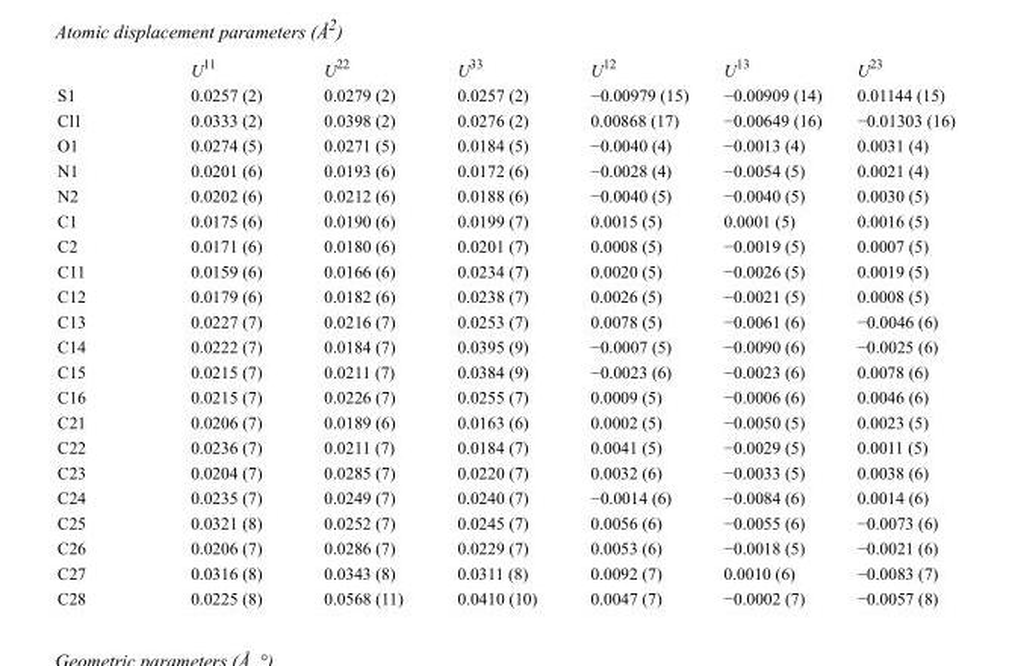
<table><thead><tr><td></td><td>U<sup>11</sup></td><td>U<sup>22</sup></td><td>U<sup>33</sup></td><td>U<sup>12</sup></td><td>U<sup>13</sup></td><td>U<sup>23</sup></td></tr></thead><tbody><tr><td>S1</td><td>0.0257 (2)</td><td>0.0279 (2)</td><td>0.0257 (2)</td><td>−0.00979 (15)</td><td>−0.00909 (14)</td><td>0.01144 (15)</td></tr><tr><td>Cl1</td><td>0.0333 (2)</td><td>0.0398 (2)</td><td>0.0276 (2)</td><td>0.00868 (17)</td><td>−0.00649 (16)</td><td>−0.01303 (16)</td></tr><tr><td>O1</td><td>0.0274 (5)</td><td>0.0271 (5)</td><td>0.0184 (5)</td><td>−0.0040 (4)</td><td>−0.0013 (4)</td><td>0.0031 (4)</td></tr><tr><td>N1</td><td>0.0201 (6)</td><td>0.0193 (6)</td><td>0.0172 (6)</td><td>−0.0028 (4)</td><td>−0.0054 (5)</td><td>0.0021 (4)</td></tr><tr><td>N2</td><td>0.0202 (6)</td><td>0.0212 (6)</td><td>0.0188 (6)</td><td>−0.0040 (5)</td><td>−0.0040 (5)</td><td>0.0030 (5)</td></tr><tr><td>C1</td><td>0.0175 (6)</td><td>0.0190 (6)</td><td>0.0199 (7)</td><td>0.0015 (5)</td><td>0.0001 (5)</td><td>0.0016 (5)</td></tr><tr><td>C2</td><td>0.0171 (6)</td><td>0.0180 (6)</td><td>0.0201 (7)</td><td>0.0008 (5)</td><td>−0.0019 (5)</td><td>0.0007 (5)</td></tr><tr><td>C11</td><td>0.0159 (6)</td><td>0.0166 (6)</td><td>0.0234 (7)</td><td>0.0020 (5)</td><td>−0.0026 (5)</td><td>0.0019 (5)</td></tr><tr><td>C12</td><td>0.0179 (6)</td><td>0.0182 (6)</td><td>0.0238 (7)</td><td>0.0026 (5)</td><td>−0.0021 (5)</td><td>0.0008 (5)</td></tr><tr><td>C13</td><td>0.0227 (7)</td><td>0.0216 (7)</td><td>0.0253 (7)</td><td>0.0078 (5)</td><td>−0.0061 (6)</td><td>−0.0046 (6)</td></tr><tr><td>C14</td><td>0.0222 (7)</td><td>0.0184 (7)</td><td>0.0395 (9)</td><td>−0.0007 (5)</td><td>−0.0090 (6)</td><td>−0.0025 (6)</td></tr><tr><td>C15</td><td>0.0215 (7)</td><td>0.0211 (7)</td><td>0.0384 (9)</td><td>−0.0023 (6)</td><td>−0.0023 (6)</td><td>0.0078 (6)</td></tr><tr><td>C16</td><td>0.0215 (7)</td><td>0.0226 (7)</td><td>0.0255 (7)</td><td>0.0009 (5)</td><td>−0.0006 (6)</td><td>0.0046 (6)</td></tr><tr><td>C21</td><td>0.0206 (7)</td><td>0.0189 (6)</td><td>0.0163 (6)</td><td>0.0002 (5)</td><td>−0.0050 (5)</td><td>0.0023 (5)</td></tr><tr><td>C22</td><td>0.0236 (7)</td><td>0.0211 (7)</td><td>0.0184 (7)</td><td>0.0041 (5)</td><td>−0.0029 (5)</td><td>0.0011 (5)</td></tr><tr><td>C23</td><td>0.0204 (7)</td><td>0.0285 (7)</td><td>0.0220 (7)</td><td>0.0032 (6)</td><td>−0.0033 (5)</td><td>0.0038 (6)</td></tr><tr><td>C24</td><td>0.0235 (7)</td><td>0.0249 (7)</td><td>0.0240 (7)</td><td>−0.0014 (6)</td><td>−0.0084 (6)</td><td>0.0014 (6)</td></tr><tr><td>C25</td><td>0.0321 (8)</td><td>0.0252 (7)</td><td>0.0245 (7)</td><td>0.0056 (6)</td><td>−0.0055 (6)</td><td>−0.0073 (6)</td></tr><tr><td>C26</td><td>0.0206 (7)</td><td>0.0286 (7)</td><td>0.0229 (7)</td><td>0.0053 (6)</td><td>−0.0018 (5)</td><td>−0.0021 (6)</td></tr><tr><td>C27</td><td>0.0316 (8)</td><td>0.0343 (8)</td><td>0.0311 (8)</td><td>0.0092 (7)</td><td>0.0010 (6)</td><td>−0.0083 (7)</td></tr><tr><td>C28</td><td>0.0225 (8)</td><td>0.0568 (11)</td><td>0.0410 (10)</td><td>0.0047 (7)</td><td>−0.0002 (7)</td><td>−0.0057 (8)</td></tr></tbody></table>